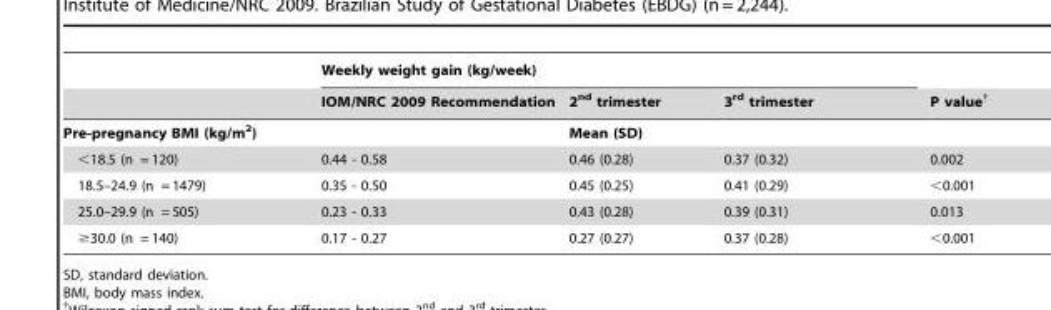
<table><thead><tr><td rowspan="2"></td><td colspan="3">Weekly weight gain (kg/week)</td><td rowspan="2">P value†</td></tr><tr><td>IOM/NRC 2009 Recommendation</td><td>2<sup>nd</sup> trimester</td><td>3<sup>rd</sup> trimester</td></tr></thead><tbody><tr><td>Pre-pregnancy BMI (kg/m<sup>2</sup>)</td><td></td><td colspan="2">Mean (SD)</td><td></td></tr><tr><td>&lt;18.5 (n = 120)</td><td>0.44 - 0.58</td><td>0.46 (0.28)</td><td>0.37 (0.32)</td><td>0.002</td></tr><tr><td>18.5–24.9 (n = 1479)</td><td>0.35 - 0.50</td><td>0.45 (0.25)</td><td>0.41 (0.29)</td><td>&lt;0.001</td></tr><tr><td>25.0–29.9 (n = 505)</td><td>0.23 - 0.33</td><td>0.43 (0.28)</td><td>0.39 (0.31)</td><td>0.013</td></tr><tr><td>≥30.0 (n = 140)</td><td>0.17 - 0.27</td><td>0.27 (0.27)</td><td>0.37 (0.28)</td><td>&lt;0.001</td></tr></tbody></table>